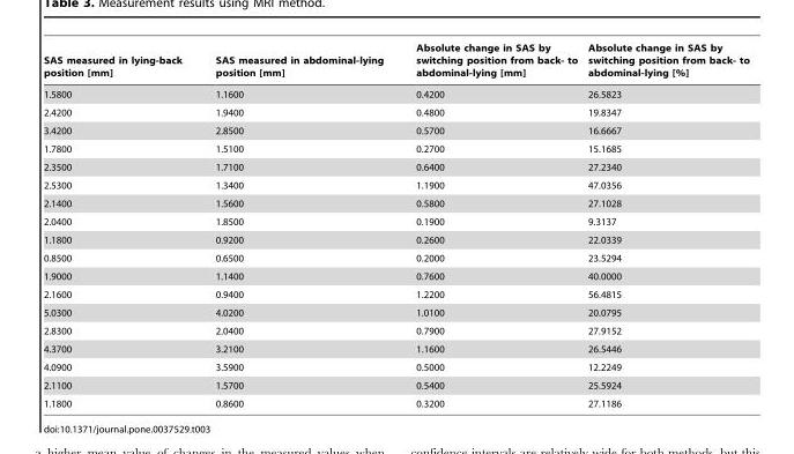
<table><thead><tr><td>SAS measured in lying-back position [mm]</td><td>SAS measured in abdominal-lying position [mm]</td><td>Absolute change in SAS by switching position from back- to abdominal-lying [mm]</td><td>Absolute change in SAS by switching position from back- to abdominal-lying [%]</td></tr></thead><tbody><tr><td>1.5800</td><td>1.1600</td><td>0.4200</td><td>26.5823</td></tr><tr><td>2.4200</td><td>1.9400</td><td>0.4800</td><td>19.8347</td></tr><tr><td>3.4200</td><td>2.8500</td><td>0.5700</td><td>16.6667</td></tr><tr><td>1.7800</td><td>1.5100</td><td>0.2700</td><td>15.1685</td></tr><tr><td>2.3500</td><td>1.7100</td><td>0.6400</td><td>27.2340</td></tr><tr><td>2.5300</td><td>1.3400</td><td>1.1900</td><td>47.0356</td></tr><tr><td>2.1400</td><td>1.5600</td><td>0.5800</td><td>27.1028</td></tr><tr><td>2.0400</td><td>1.8500</td><td>0.1900</td><td>9.3137</td></tr><tr><td>1.1800</td><td>0.9200</td><td>0.2600</td><td>22.0339</td></tr><tr><td>0.8500</td><td>0.6500</td><td>0.2000</td><td>23.5294</td></tr><tr><td>1.9000</td><td>1.1400</td><td>0.7600</td><td>40.0000</td></tr><tr><td>2.1600</td><td>0.9400</td><td>1.2200</td><td>56.4815</td></tr><tr><td>5.0300</td><td>4.0200</td><td>1.0100</td><td>20.0795</td></tr><tr><td>2.8300</td><td>2.0400</td><td>0.7900</td><td>27.9152</td></tr><tr><td>4.3700</td><td>3.2100</td><td>1.1600</td><td>26.5446</td></tr><tr><td>4.0900</td><td>3.5900</td><td>0.5000</td><td>12.2249</td></tr><tr><td>2.1100</td><td>1.5700</td><td>0.5400</td><td>25.5924</td></tr><tr><td>1.1800</td><td>0.8600</td><td>0.3200</td><td>27.1186</td></tr></tbody></table>